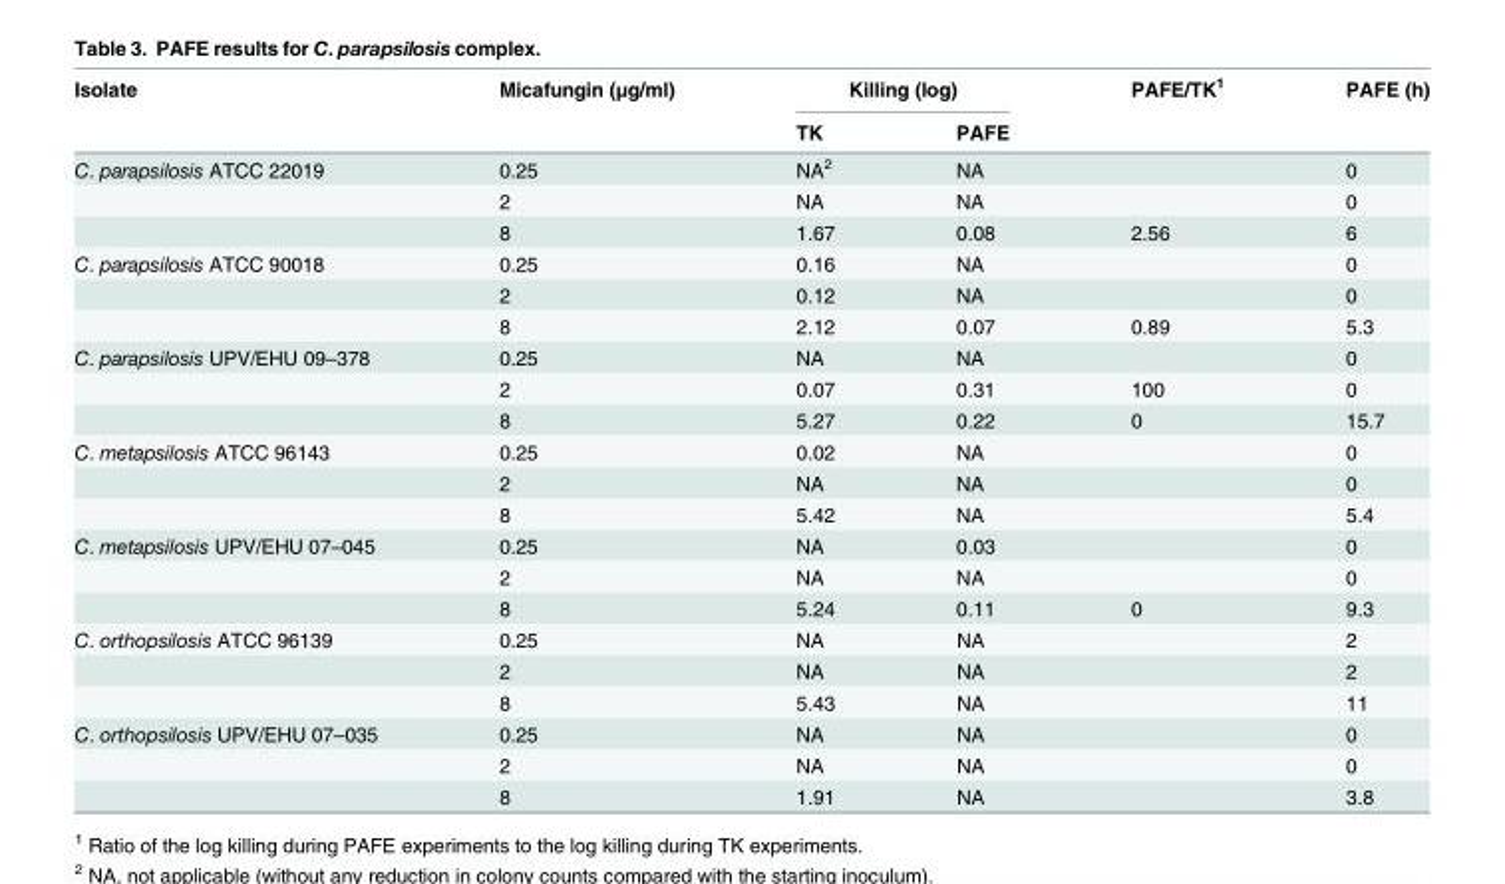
<table><thead><tr><td rowspan="2">Isolate</td><td rowspan="2">Micafungin (μg/ml)</td><td colspan="2">Killing (log)</td><td rowspan="2">PAFE/TK<sup>1</sup></td><td rowspan="2">PAFE (h)</td></tr><tr><td>TK</td><td>PAFE</td></tr></thead><tbody><tr><td rowspan="3">C. parapsilosis ATCC 22019</td><td>0.25</td><td>NA<sup>2</sup></td><td>NA</td><td></td><td>0</td></tr><tr><td>2</td><td>NA</td><td>NA</td><td></td><td>0</td></tr><tr><td>8</td><td>1.67</td><td>0.08</td><td>2.56</td><td>6</td></tr><tr><td rowspan="3">C. parapsilosis ATCC 90018</td><td>0.25</td><td>0.16</td><td>NA</td><td></td><td>0</td></tr><tr><td>2</td><td>0.12</td><td>NA</td><td></td><td>0</td></tr><tr><td>8</td><td>2.12</td><td>0.07</td><td>0.89</td><td>5.3</td></tr><tr><td rowspan="3">C. parapsilosis UPV/EHU 09–378</td><td>0.25</td><td>NA</td><td>NA</td><td></td><td>0</td></tr><tr><td>2</td><td>0.07</td><td>0.31</td><td>100</td><td>0</td></tr><tr><td>8</td><td>5.27</td><td>0.22</td><td>0</td><td>15.7</td></tr><tr><td rowspan="3">C. metapsilosis ATCC 96143</td><td>0.25</td><td>0.02</td><td>NA</td><td></td><td>0</td></tr><tr><td>2</td><td>NA</td><td>NA</td><td></td><td>0</td></tr><tr><td>8</td><td>5.42</td><td>NA</td><td></td><td>5.4</td></tr><tr><td rowspan="3">C. metapsilosis UPV/EHU 07–045</td><td>0.25</td><td>NA</td><td>0.03</td><td></td><td>0</td></tr><tr><td>2</td><td>NA</td><td>NA</td><td></td><td>0</td></tr><tr><td>8</td><td>5.24</td><td>0.11</td><td>0</td><td>9.3</td></tr><tr><td rowspan="3">C. orthopsilosis ATCC 96139</td><td>0.25</td><td>NA</td><td>NA</td><td></td><td>2</td></tr><tr><td>2</td><td>NA</td><td>NA</td><td></td><td>2</td></tr><tr><td>8</td><td>5.43</td><td>NA</td><td></td><td>11</td></tr><tr><td rowspan="3">C. orthopsilosis UPV/EHU 07–035</td><td>0.25</td><td>NA</td><td>NA</td><td></td><td>0</td></tr><tr><td>2</td><td>NA</td><td>NA</td><td></td><td>0</td></tr><tr><td>8</td><td>1.91</td><td>NA</td><td></td><td>3.8</td></tr></tbody></table>